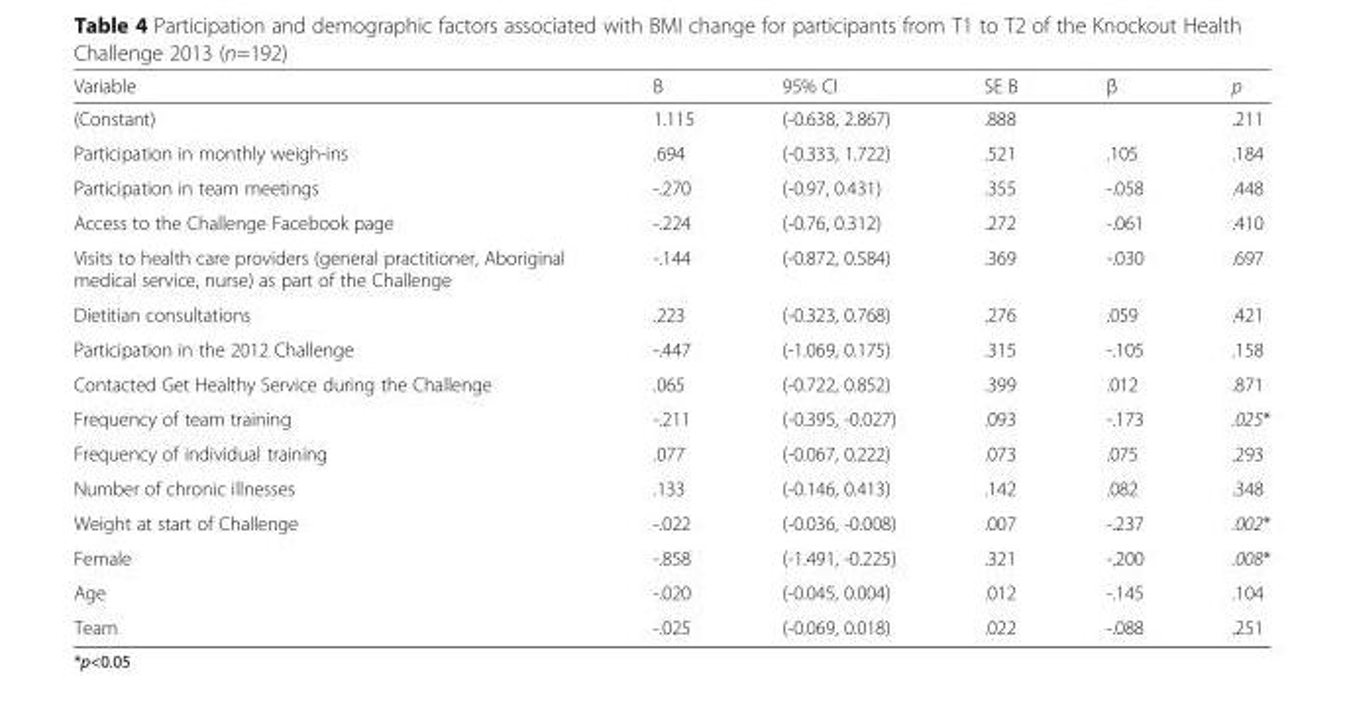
<table><thead><tr><td>Variable</td><td>B</td><td>95% CI</td><td>SE B</td><td>β</td><td>p</td></tr></thead><tbody><tr><td>(Constant)</td><td>1.115</td><td>(-0.638, 2.867)</td><td>.888</td><td></td><td>.211</td></tr><tr><td>Participation in monthly weigh-ins</td><td>.694</td><td>(-0.333, 1.722)</td><td>.521</td><td>.105</td><td>.184</td></tr><tr><td>Participation in team meetings</td><td>-.270</td><td>(-0.97, 0.431)</td><td>.355</td><td>-.058</td><td>.448</td></tr><tr><td>Access to the Challenge Facebook page</td><td>-.224</td><td>(-0.76, 0.312)</td><td>.272</td><td>-.061</td><td>.410</td></tr><tr><td>Visits to health care providers (general practitioner, Aboriginal medical service, nurse) as part of the Challenge</td><td>-.144</td><td>(-0.872, 0.584)</td><td>.369</td><td>-.030</td><td>.697</td></tr><tr><td>Dietitian consultations</td><td>.223</td><td>(-0.323, 0.768)</td><td>.276</td><td>.059</td><td>.421</td></tr><tr><td>Participation in the 2012 Challenge</td><td>-.447</td><td>(-1.069, 0.175)</td><td>.315</td><td>-.105</td><td>.158</td></tr><tr><td>Contacted Get Healthy Service during the Challenge</td><td>.065</td><td>(-0.722, 0.852)</td><td>.399</td><td>.012</td><td>.871</td></tr><tr><td>Frequency of team training</td><td>-.211</td><td>(-0.395, -0.027)</td><td>.093</td><td>-.173</td><td>.025*</td></tr><tr><td>Frequency of individual training</td><td>.077</td><td>(-0.067, 0.222)</td><td>.073</td><td>.075</td><td>.293</td></tr><tr><td>Number of chronic illnesses</td><td>.133</td><td>(-0.146, 0.413)</td><td>.142</td><td>.082</td><td>.348</td></tr><tr><td>Weight at start of Challenge</td><td>-.022</td><td>(-0.036, -0.008)</td><td>.007</td><td>-.237</td><td>.002*</td></tr><tr><td>Female</td><td>-.858</td><td>(-1.491, -0.225)</td><td>.321</td><td>-.200</td><td>.008*</td></tr><tr><td>Age</td><td>-.020</td><td>(-0.045, 0.004)</td><td>.012</td><td>-.145</td><td>.104</td></tr><tr><td>Team</td><td>-.025</td><td>(-0.069, 0.018)</td><td>.022</td><td>-.088</td><td>.251</td></tr></tbody></table>